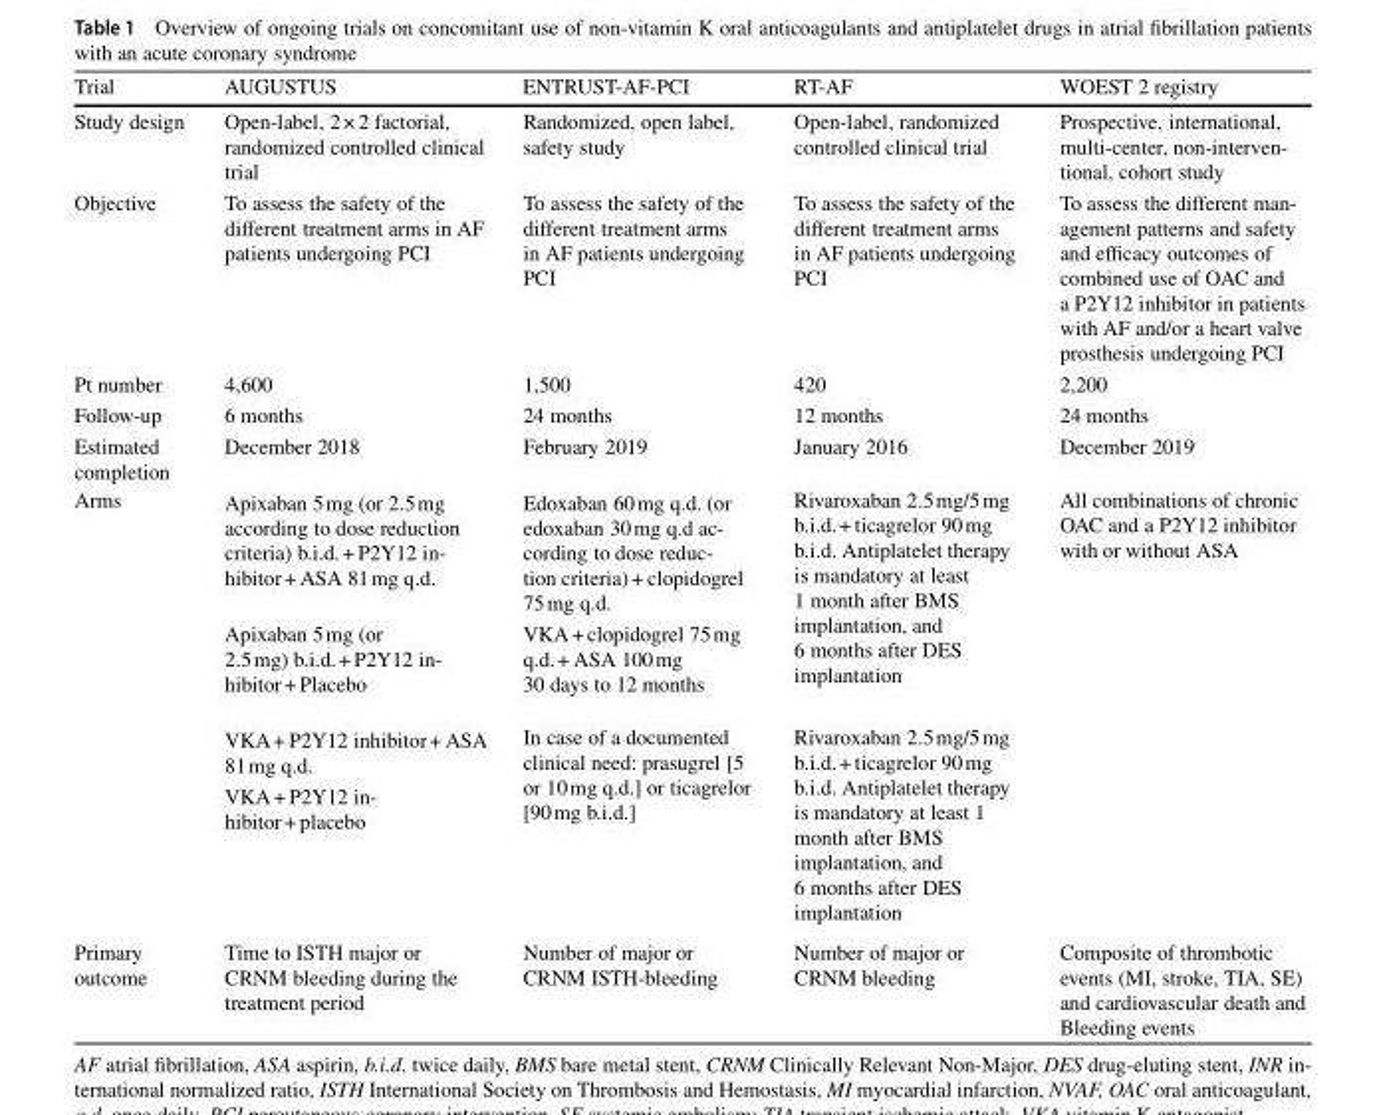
<table><thead><tr><td>Trial</td><td>AUGUSTUS</td><td>ENTRUST-AF-PCI</td><td>RT-AF</td><td>WOEST 2 registry</td></tr></thead><tbody><tr><td>Study design</td><td>Open-label, 2× 2 factorial, randomized controlled clinical trial</td><td>Randomized, open label, safety study</td><td>Open-label, randomized controlled clinical trial</td><td>Prospective, international, multi-center, non-interven- tional, cohort study</td></tr><tr><td>Objective</td><td>To assess the safety of the different treatment arms in AF patients undergoing PCI</td><td>To assess the safety of the different treatment arms in AF patients undergoing PCI</td><td>To assess the safety of the different treatment arms in AF patients undergoing PCI</td><td>To assess the different man- agement patterns and safety and efficacy outcomes of combined use of OAC and a P2Y12 inhibitor in patients with AF and/or a heart valve prosthesis undergoing PCI</td></tr><tr><td>Pt number</td><td>4,600</td><td>1,500</td><td>420</td><td>2,200</td></tr><tr><td>Follow-up</td><td>6 months</td><td>24 months</td><td>12 months</td><td>24 months</td></tr><tr><td>Estimated completion</td><td>December 2018</td><td>February 2019</td><td>January 2016</td><td>December 2019</td></tr><tr><td rowspan="4">Arms</td><td>Apixaban 5mg (or 2.5mg according to dose reduction criteria) b.i.d.+ P2Y12 in- hibitor+ ASA 81mg q.d.</td><td>Edoxaban 60mg q.d. (or edoxaban 30mg q.d ac- cording to dose reduc- tion criteria)+ clopidogrel 75mg q.d.</td><td rowspan="2">Rivaroxaban 2.5mg/5mg b.i.d.+ ticagrelor 90mg b.i.d. Antiplatelet therapy is mandatory at least 1 month after BMS implantation, and 6 months after DES implantation</td><td rowspan="4">All combinations of chronic OAC and a P2Y12 inhibitor with or without ASA</td></tr><tr><td>Apixaban 5mg (or 2.5mg) b.i.d.+ P2Y12 in- hibitor+ Placebo</td><td>VKA+ clopidogrel 75mg q.d.+ ASA 100mg 30 days to 12 months</td></tr><tr><td>VKA+ P2Y12 inhibitor+ ASA 81mg q.d.</td><td rowspan="2">In case of a documented clinical need: prasugrel [5 or 10mg q.d.] or ticagrelor [90mg b.i.d.]</td><td rowspan="2">Rivaroxaban 2.5mg/5mg b.i.d.+ ticagrelor 90mg b.i.d. Antiplatelet therapy is mandatory at least 1 month after BMS implantation, and 6 months after DES implantation</td></tr><tr><td>VKA+ P2Y12 in- hibitor+ placebo</td></tr><tr><td>Primary outcome</td><td>Time to ISTH major or CRNM bleeding during the treatment period</td><td>Number of major or CRNM ISTH-bleeding</td><td>Number of major or CRNM bleeding</td><td>Composite of thrombotic events (MI, stroke, TIA, SE) and cardiovascular death and Bleeding events</td></tr></tbody></table>